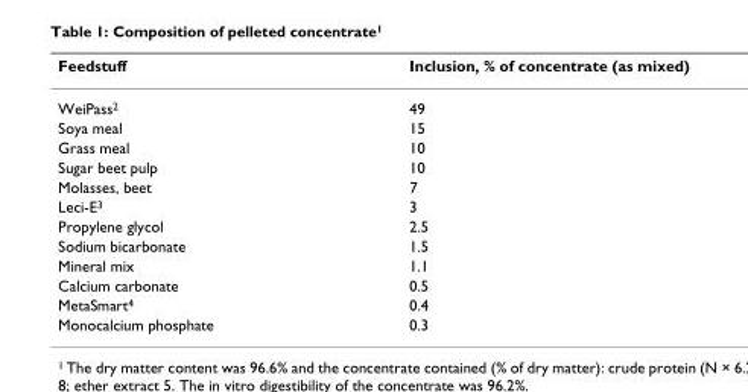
<table><thead><tr><td>Feedstuff</td><td>Inclusion, % of concentrate (as mixed)</td></tr></thead><tbody><tr><td>WeiPass<sup>2</sup></td><td>49</td></tr><tr><td>Soya meal</td><td>15</td></tr><tr><td>Grass meal</td><td>10</td></tr><tr><td>Sugar beet pulp</td><td>10</td></tr><tr><td>Molasses, beet</td><td>7</td></tr><tr><td>Leci-E<sup>3</sup></td><td>3</td></tr><tr><td>Propylene glycol</td><td>2.5</td></tr><tr><td>Sodium bicarbonate</td><td>1.5</td></tr><tr><td>Mineral mix</td><td>1.1</td></tr><tr><td>Calcium carbonate</td><td>0.5</td></tr><tr><td>MetaSmart<sup>4</sup></td><td>0.4</td></tr><tr><td>Monocalcium phosphate</td><td>0.3</td></tr></tbody></table>